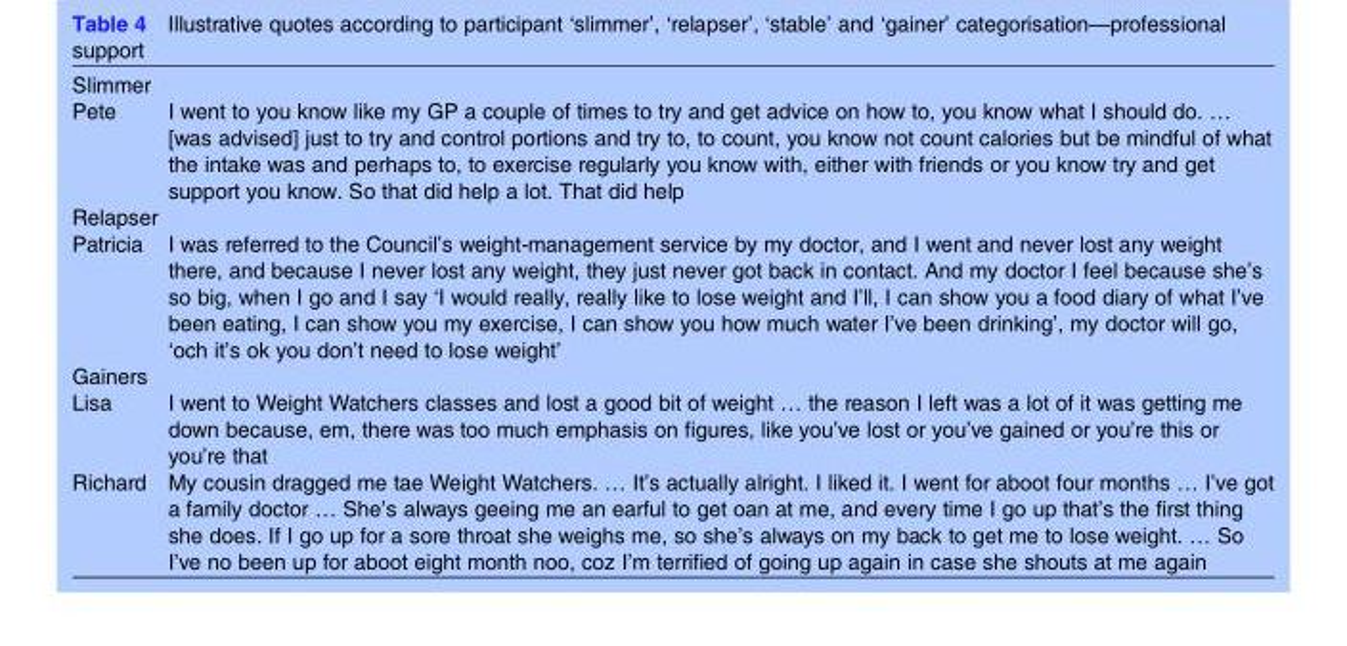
<table><tbody><tr><td colspan="2">Slimmer</td></tr><tr><td>Pete</td><td>I went to you know like my GP a couple of times to try and get advice on how to, you know what I should do. … [was advised] just to try and control portions and try to, to count, you know not count calories but be mindful of what the intake was and perhaps to, to exercise regularly you know with, either with friends or you know try and get support you know. So that did help a lot. That did help</td></tr><tr><td colspan="2">Relapser</td></tr><tr><td>Patricia</td><td>I was referred to the Council’s weight-management service by my doctor, and I went and never lost any weight there, and because I never lost any weight, they just never got back in contact. And my doctor I feel because she’s so big, when I go and I say ‘I would really, really like to lose weight and I’ll, I can show you a food diary of what I’ve been eating, I can show you my exercise, I can show you how much water I’ve been drinking’, my doctor will go, ‘och it’s ok you don’t need to lose weight’</td></tr><tr><td colspan="2">Gainers</td></tr><tr><td>Lisa</td><td>I went to Weight Watchers classes and lost a good bit of weight … the reason I left was a lot of it was getting me down because, em, there was too much emphasis on figures, like you’ve lost or you’ve gained or you’re this or you’re that</td></tr><tr><td>Richard</td><td>My cousin dragged me tae Weight Watchers. … It’s actually alright. I liked it. I went for aboot four months … I’ve got a family doctor … She’s always geeing me an earful to get oan at me, and every time I go up that’s the first thing she does. If I go up for a sore throat she weighs me, so she’s always on my back to get me to lose weight. … So I’ve no been up for aboot eight month noo, coz I’m terrified of going up again in case she shouts at me again</td></tr></tbody></table>